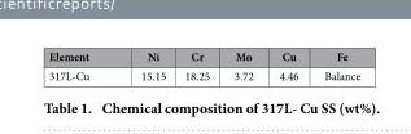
<table><thead><tr><td>Element</td><td>Ni</td><td>Cr</td><td>Mo</td><td>Cu</td><td>Fe</td></tr></thead><tbody><tr><td>317L-Cu</td><td>15.15</td><td>18.25</td><td>3.72</td><td>4.46</td><td>Balance</td></tr></tbody></table>